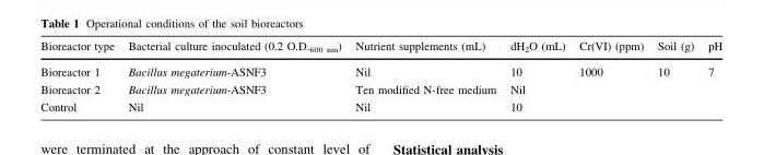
<table><thead><tr><td>Bioreactor type</td><td>Bacterial culture inoculated (0.2 O.D.<sub>600 nm</sub>)</td><td>Nutrient supplements (mL)</td><td>dH<sub>2</sub>O (mL)</td><td>Cr(VI) (ppm)</td><td>Soil (g)</td><td>pH</td></tr></thead><tbody><tr><td>Bioreactor 1</td><td>Bacillus megaterium-ASNF3</td><td>Nil</td><td>10</td><td>1000</td><td>10</td><td>7</td></tr><tr><td>Bioreactor 2</td><td>Bacillus megaterium-ASNF3</td><td>Ten modified N-free medium</td><td>Nil</td><td></td><td></td><td></td></tr><tr><td>Control</td><td>Nil</td><td>Nil</td><td>10</td><td></td><td></td><td></td></tr></tbody></table>